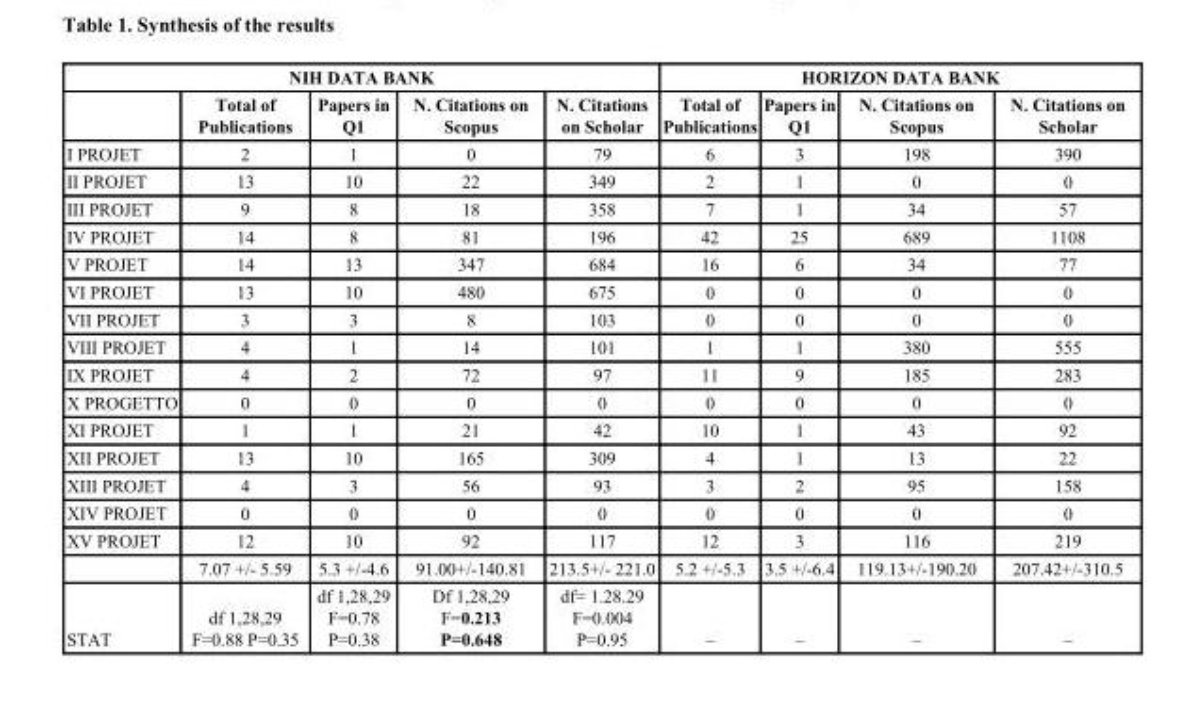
<table><thead><tr><td colspan="5">NIH DATA BANK</td><td colspan="4">HORIZON DATA BANK</td></tr><tr><td></td><td>Total of Publications</td><td>Papers in Q1</td><td>N. Citations on Scopus</td><td>N. Citations on Scholar</td><td>Total of Publications</td><td>Papers in Q1</td><td>N. Citations on Scopus</td><td>N. Citations on Scholar</td></tr></thead><tbody><tr><td>I PROJET</td><td>2</td><td>1</td><td>0</td><td>79</td><td>6</td><td>3</td><td>198</td><td>390</td></tr><tr><td>II PROJET</td><td>13</td><td>10</td><td>22</td><td>349</td><td>2</td><td>1</td><td>0</td><td>0</td></tr><tr><td>III PROJET</td><td>9</td><td>8</td><td>18</td><td>358</td><td>7</td><td>1</td><td>34</td><td>57</td></tr><tr><td>IV PROJET</td><td>14</td><td>8</td><td>81</td><td>196</td><td>42</td><td>25</td><td>689</td><td>1108</td></tr><tr><td>V PROJET</td><td>14</td><td>13</td><td>347</td><td>684</td><td>16</td><td>6</td><td>34</td><td>77</td></tr><tr><td>VI PROJET</td><td>13</td><td>10</td><td>480</td><td>675</td><td>0</td><td>0</td><td>0</td><td>0</td></tr><tr><td>VII PROJET</td><td>3</td><td>3</td><td>8</td><td>103</td><td>0</td><td>0</td><td>0</td><td>0</td></tr><tr><td>VIII PROJET</td><td>4</td><td>1</td><td>14</td><td>101</td><td>1</td><td>1</td><td>380</td><td>555</td></tr><tr><td>IX PROJET</td><td>4</td><td>2</td><td>72</td><td>97</td><td>11</td><td>9</td><td>185</td><td>283</td></tr><tr><td>X PROGETTO</td><td>0</td><td>0</td><td>0</td><td>0</td><td>0</td><td>0</td><td>0</td><td>0</td></tr><tr><td>XI PROJET</td><td>1</td><td>1</td><td>21</td><td>42</td><td>10</td><td>1</td><td>43</td><td>92</td></tr><tr><td>XII PROJET</td><td>13</td><td>10</td><td>165</td><td>309</td><td>4</td><td>1</td><td>13</td><td>22</td></tr><tr><td>XIII PROJET</td><td>4</td><td>3</td><td>56</td><td>93</td><td>3</td><td>2</td><td>95</td><td>158</td></tr><tr><td>XIV PROJET</td><td>0</td><td>0</td><td>0</td><td>0</td><td>0</td><td>0</td><td>0</td><td>0</td></tr><tr><td rowspan="2">XV PROJET</td><td>12</td><td>10</td><td>92</td><td>117</td><td>12</td><td>3</td><td>116</td><td>219</td></tr><tr><td>7.07 +/- 5.59</td><td>5.3 +/-4.6</td><td>91.00+/-140.81</td><td>213.5+/- 221.0</td><td>5.2 +/-5.3</td><td>3.5 +/-6.4</td><td>119.13+/-190.20</td><td>207.42+/-310.5</td></tr><tr><td>STAT</td><td>df 1,28,29 F=0.88 P=0.35</td><td>df 1,28,29 F=0.78 P=0.38</td><td>Df 1,28,29 F=0.213 P=0.648</td><td>df= 1.28.29 F=0.004 P=0.95</td><td>–</td><td>–</td><td>–</td><td>–</td></tr></tbody></table>